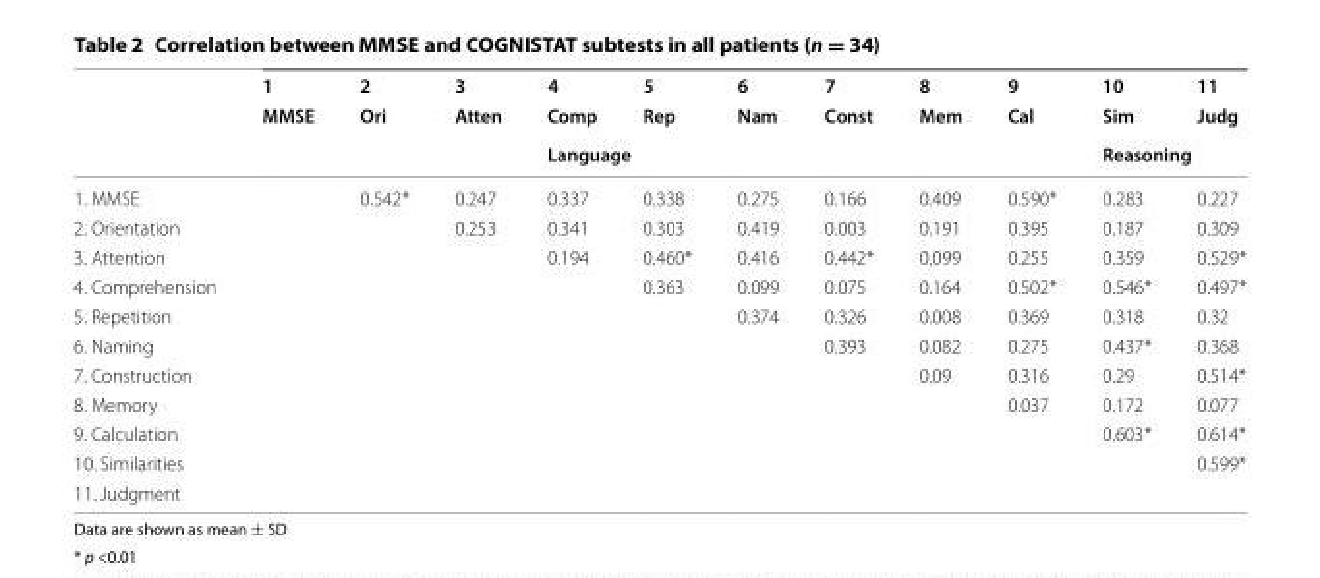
<table><thead><tr><td rowspan="3"></td><td rowspan="3">1 MMSE</td><td rowspan="3">2 Ori</td><td rowspan="3">3 Atten</td><td rowspan="2">4 Comp</td><td rowspan="2">5 Rep</td><td rowspan="2">6 Nam</td><td rowspan="3">7 Const</td><td rowspan="3">8 Mem</td><td rowspan="3">9 Cal</td><td rowspan="2">10 Sim</td><td rowspan="2">11 Judg</td></tr><tr></tr><tr><td colspan="3">Language</td><td colspan="2">Reasoning</td></tr></thead><tbody><tr><td>1. MMSE</td><td></td><td>0.542*</td><td>0.247</td><td>0.337</td><td>0.338</td><td>0.275</td><td>0.166</td><td>0.409</td><td>0.590*</td><td>0.283</td><td>0.227</td></tr><tr><td>2. Orientation</td><td></td><td></td><td>0.253</td><td>0.341</td><td>0.303</td><td>0.419</td><td>0.003</td><td>0.191</td><td>0.395</td><td>0.187</td><td>0.309</td></tr><tr><td>3. Attention</td><td></td><td></td><td></td><td>0.194</td><td>0.460*</td><td>0.416</td><td>0.442*</td><td>0.099</td><td>0.255</td><td>0.359</td><td>0.529*</td></tr><tr><td>4. Comprehension</td><td></td><td></td><td></td><td></td><td>0.363</td><td>0.099</td><td>0.075</td><td>0.164</td><td>0.502*</td><td>0.546*</td><td>0.497*</td></tr><tr><td>5. Repetition</td><td></td><td></td><td></td><td></td><td></td><td>0.374</td><td>0.326</td><td>0.008</td><td>0.369</td><td>0.318</td><td>0.32</td></tr><tr><td>6. Naming</td><td></td><td></td><td></td><td></td><td></td><td></td><td>0.393</td><td>0.082</td><td>0.275</td><td>0.437*</td><td>0.368</td></tr><tr><td>7. Construction</td><td></td><td></td><td></td><td></td><td></td><td></td><td></td><td>0.09</td><td>0.316</td><td>0.29</td><td>0.514*</td></tr><tr><td>8. Memory</td><td></td><td></td><td></td><td></td><td></td><td></td><td></td><td></td><td>0.037</td><td>0.172</td><td>0.077</td></tr><tr><td>9. Calculation</td><td></td><td></td><td></td><td></td><td></td><td></td><td></td><td></td><td></td><td>0.603*</td><td>0.614*</td></tr><tr><td>10. Similarities</td><td></td><td></td><td></td><td></td><td></td><td></td><td></td><td></td><td></td><td></td><td>0.599*</td></tr><tr><td>11. Judgment</td><td></td><td></td><td></td><td></td><td></td><td></td><td></td><td></td><td></td><td></td><td></td></tr></tbody></table>